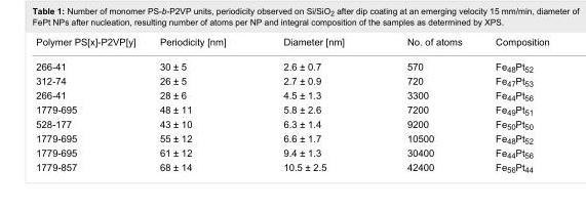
<table><tbody><tr><td>Polymer PS[x]-P2VP[y]</td><td>Periodicity [nm]</td><td>Diameter [nm]</td><td>No. of atoms</td><td>Composition</td></tr><tr><td>266-41</td><td>30 ± 5</td><td>2.6 ± 0.7</td><td>570</td><td>Fe<sub>48</sub>Pt<sub>52</sub></td></tr><tr><td>312-74</td><td>26 ± 5</td><td>2.7 ± 0.9</td><td>720</td><td>Fe<sub>47</sub>Pt<sub>53</sub></td></tr><tr><td>266-41</td><td>28 ± 6</td><td>4.5 ± 1.3</td><td>3300</td><td>Fe<sub>44</sub>Pt<sub>56</sub></td></tr><tr><td>1779-695</td><td>48 ± 11</td><td>5.8 ± 2.6</td><td>7200</td><td>Fe<sub>49</sub>Pt<sub>51</sub></td></tr><tr><td>528-177</td><td>43 ± 10</td><td>6.3 ± 1.4</td><td>9200</td><td>Fe<sub>50</sub>Pt<sub>50</sub></td></tr><tr><td>1779-695</td><td>55 ± 12</td><td>6.6 ± 1.7</td><td>10500</td><td>Fe<sub>48</sub>Pt<sub>52</sub></td></tr><tr><td>1779-695</td><td>61 ± 12</td><td>9.4 ± 1.3</td><td>30400</td><td>Fe<sub>44</sub>Pt<sub>56</sub></td></tr><tr><td>1779-857</td><td>68 ± 14</td><td>10.5 ± 2.5</td><td>42400</td><td>Fe<sub>56</sub>Pt<sub>44</sub></td></tr></tbody></table>